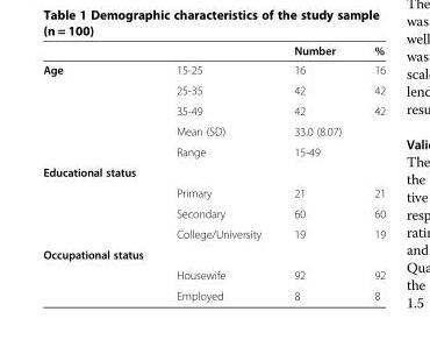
<table><thead><tr><td></td><td></td><td>Number</td><td>%</td></tr></thead><tbody><tr><td rowspan="5">Age</td><td>15-25</td><td>16</td><td>16</td></tr><tr><td>25-35</td><td>42</td><td>42</td></tr><tr><td>35-49</td><td>42</td><td>42</td></tr><tr><td>Mean (SD)</td><td>33.0 (8.07)</td><td></td></tr><tr><td>Range</td><td>15-49</td><td></td></tr><tr><td colspan="4">Educational status</td></tr><tr><td></td><td>Primary</td><td>21</td><td>21</td></tr><tr><td></td><td>Secondary</td><td>60</td><td>60</td></tr><tr><td></td><td>College/University</td><td>19</td><td>19</td></tr><tr><td colspan="4">Occupational status</td></tr><tr><td></td><td>Housewife</td><td>92</td><td>92</td></tr><tr><td></td><td>Employed</td><td>8</td><td>8</td></tr></tbody></table>